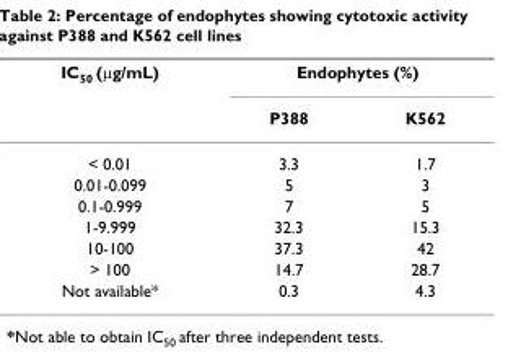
<table><thead><tr><td rowspan="2">IC<sub>50</sub> (μg/mL)</td><td colspan="2">Endophytes (%)</td></tr><tr><td>P388</td><td>K562</td></tr></thead><tbody><tr><td>&lt; 0.01</td><td>3.3</td><td>1.7</td></tr><tr><td>0.01-0.099</td><td>5</td><td>3</td></tr><tr><td>0.1-0.999</td><td>7</td><td>5</td></tr><tr><td>1-9.999</td><td>32.3</td><td>15.3</td></tr><tr><td>10-100</td><td>37.3</td><td>42</td></tr><tr><td>&gt; 100</td><td>14.7</td><td>28.7</td></tr><tr><td>Not available*</td><td>0.3</td><td>4.3</td></tr></tbody></table>